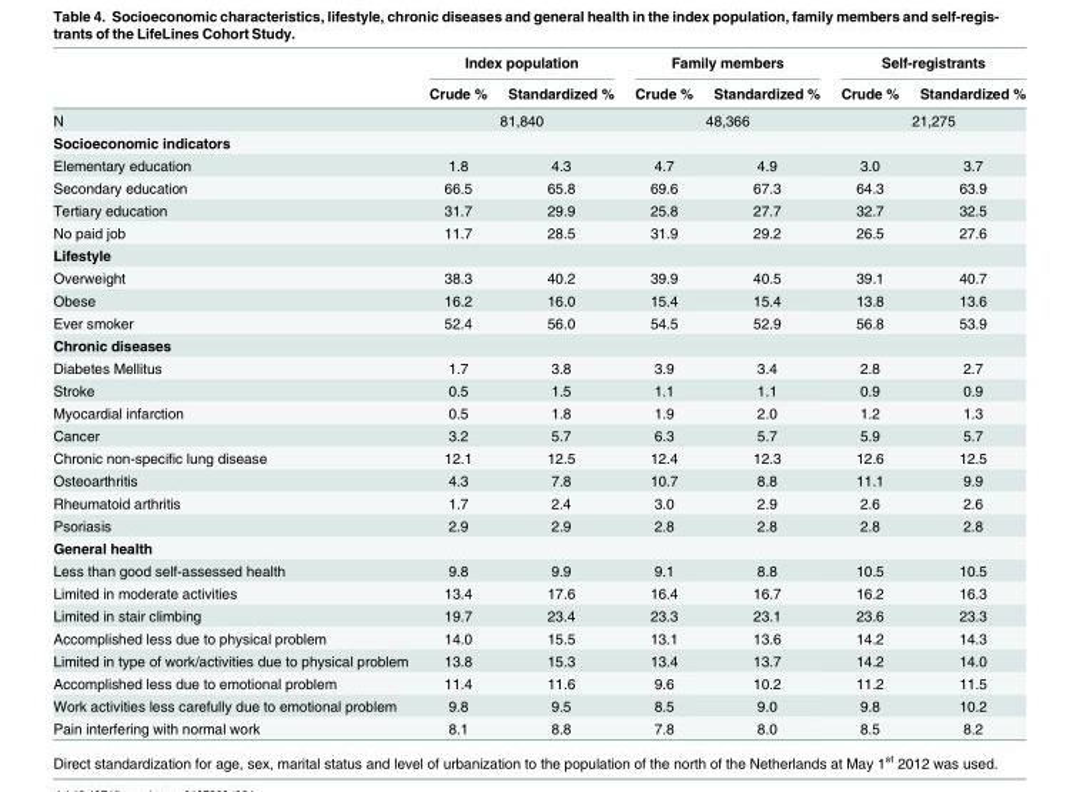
<table><thead><tr><td rowspan="2"></td><td colspan="2">Index population</td><td colspan="2">Family members</td><td colspan="2">Self-registrants</td></tr><tr><td>Crude %</td><td>Standardized %</td><td>Crude %</td><td>Standardized %</td><td>Crude %</td><td>Standardized %</td></tr></thead><tbody><tr><td>N</td><td colspan="2">81,840</td><td colspan="2">48,366</td><td colspan="2">21,275</td></tr><tr><td colspan="7">Socioeconomic indicators</td></tr><tr><td>Elementary education</td><td>1.8</td><td>4.3</td><td>4.7</td><td>4.9</td><td>3.0</td><td>3.7</td></tr><tr><td>Secondary education</td><td>66.5</td><td>65.8</td><td>69.6</td><td>67.3</td><td>64.3</td><td>63.9</td></tr><tr><td>Tertiary education</td><td>31.7</td><td>29.9</td><td>25.8</td><td>27.7</td><td>32.7</td><td>32.5</td></tr><tr><td>No paid job</td><td>11.7</td><td>28.5</td><td>31.9</td><td>29.2</td><td>26.5</td><td>27.6</td></tr><tr><td colspan="7">Lifestyle</td></tr><tr><td>Overweight</td><td>38.3</td><td>40.2</td><td>39.9</td><td>40.5</td><td>39.1</td><td>40.7</td></tr><tr><td>Obese</td><td>16.2</td><td>16.0</td><td>15.4</td><td>15.4</td><td>13.8</td><td>13.6</td></tr><tr><td>Ever smoker</td><td>52.4</td><td>56.0</td><td>54.5</td><td>52.9</td><td>56.8</td><td>53.9</td></tr><tr><td colspan="7">Chronic diseases</td></tr><tr><td>Diabetes Mellitus</td><td>1.7</td><td>3.8</td><td>3.9</td><td>3.4</td><td>2.8</td><td>2.7</td></tr><tr><td>Stroke</td><td>0.5</td><td>1.5</td><td>1.1</td><td>1.1</td><td>0.9</td><td>0.9</td></tr><tr><td>Myocardial infarction</td><td>0.5</td><td>1.8</td><td>1.9</td><td>2.0</td><td>1.2</td><td>1.3</td></tr><tr><td>Cancer</td><td>3.2</td><td>5.7</td><td>6.3</td><td>5.7</td><td>5.9</td><td>5.7</td></tr><tr><td>Chronic non-specific lung disease</td><td>12.1</td><td>12.5</td><td>12.4</td><td>12.3</td><td>12.6</td><td>12.5</td></tr><tr><td>Osteoarthritis</td><td>4.3</td><td>7.8</td><td>10.7</td><td>8.8</td><td>11.1</td><td>9.9</td></tr><tr><td>Rheumatoid arthritis</td><td>1.7</td><td>2.4</td><td>3.0</td><td>2.9</td><td>2.6</td><td>2.6</td></tr><tr><td>Psoriasis</td><td>2.9</td><td>2.9</td><td>2.8</td><td>2.8</td><td>2.8</td><td>2.8</td></tr><tr><td colspan="7">General health</td></tr><tr><td>Less than good self-assessed health</td><td>9.8</td><td>9.9</td><td>9.1</td><td>8.8</td><td>10.5</td><td>10.5</td></tr><tr><td>Limited in moderate activities</td><td>13.4</td><td>17.6</td><td>16.4</td><td>16.7</td><td>16.2</td><td>16.3</td></tr><tr><td>Limited in stair climbing</td><td>19.7</td><td>23.4</td><td>23.3</td><td>23.1</td><td>23.6</td><td>23.3</td></tr><tr><td>Accomplished less due to physical problem</td><td>14.0</td><td>15.5</td><td>13.1</td><td>13.6</td><td>14.2</td><td>14.3</td></tr><tr><td>Limited in type of work/activities due to physical problem</td><td>13.8</td><td>15.3</td><td>13.4</td><td>13.7</td><td>14.2</td><td>14.0</td></tr><tr><td>Accomplished less due to emotional problem</td><td>11.4</td><td>11.6</td><td>9.6</td><td>10.2</td><td>11.2</td><td>11.5</td></tr><tr><td>Work activities less carefully due to emotional problem</td><td>9.8</td><td>9.5</td><td>8.5</td><td>9.0</td><td>9.8</td><td>10.2</td></tr><tr><td>Pain interfering with normal work</td><td>8.1</td><td>8.8</td><td>7.8</td><td>8.0</td><td>8.5</td><td>8.2</td></tr></tbody></table>